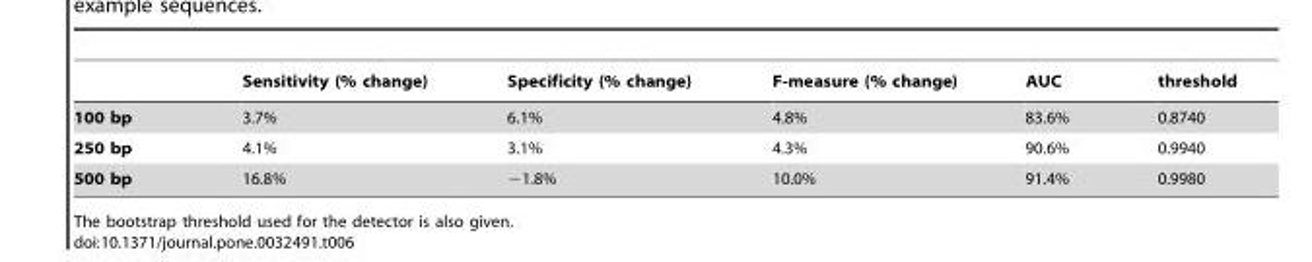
<table><thead><tr><td></td><td>Sensitivity (% change)</td><td>Specificity (% change)</td><td>F-measure (% change)</td><td>AUC</td><td>threshold</td></tr></thead><tbody><tr><td>100 bp</td><td>3.7%</td><td>6.1%</td><td>4.8%</td><td>83.6%</td><td>0.8740</td></tr><tr><td>250 bp</td><td>4.1%</td><td>3.1%</td><td>4.3%</td><td>90.6%</td><td>0.9940</td></tr><tr><td>500 bp</td><td>16.8%</td><td>−1.8%</td><td>10.0%</td><td>91.4%</td><td>0.9980</td></tr></tbody></table>